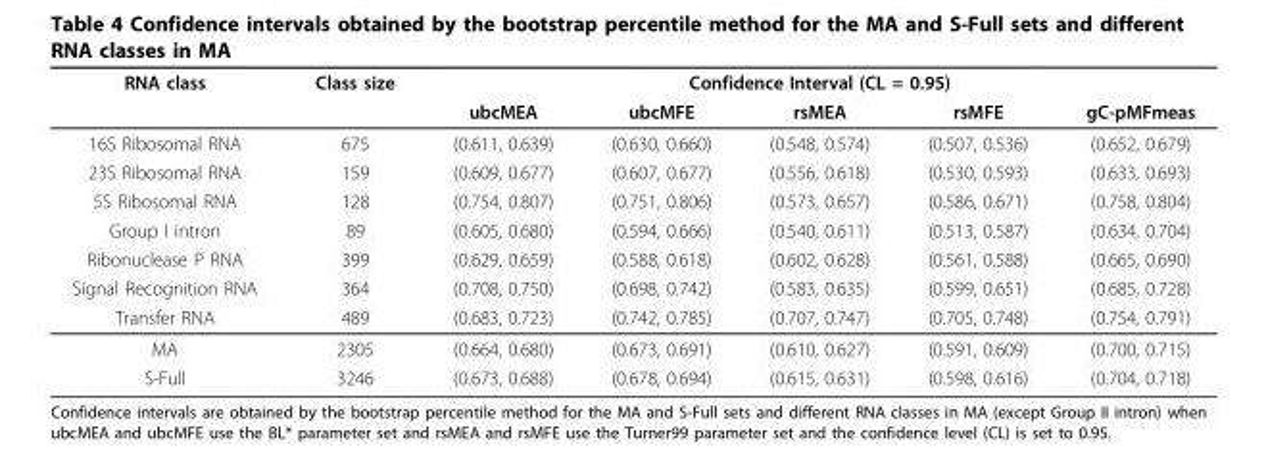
<table><thead><tr><td rowspan="2">RNA class</td><td rowspan="2">Class size</td><td rowspan="2">ubcMEA</td><td colspan="3">Confidence Interval (CL = 0.95)</td><td rowspan="2">gC-pMFmeas</td></tr><tr><td>ubcMFE</td><td>rsMEA</td><td>rsMFE</td></tr></thead><tbody><tr><td>16S Ribosomal RNA</td><td>675</td><td>(0.611, 0.639)</td><td>(0.630, 0.660)</td><td>(0.548, 0.574)</td><td>(0.507, 0.536)</td><td>(0.652, 0.679)</td></tr><tr><td>23S Ribosomal RNA</td><td>159</td><td>(0.609, 0.677)</td><td>(0.607, 0.677)</td><td>(0.556, 0.618)</td><td>(0.530, 0.593)</td><td>(0.633, 0.693)</td></tr><tr><td>5S Ribosomal RNA</td><td>128</td><td>(0.754, 0.807)</td><td>(0.751, 0.806)</td><td>(0.573, 0.657)</td><td>(0.586, 0.671)</td><td>(0.758, 0.804)</td></tr><tr><td>Group I intron</td><td>89</td><td>(0.605, 0.680)</td><td>(0.594, 0.666)</td><td>(0.540, 0.611)</td><td>(0.513, 0.587)</td><td>(0.634, 0.704)</td></tr><tr><td>Ribonuclease P RNA</td><td>399</td><td>(0.629, 0.659)</td><td>(0.588, 0.618)</td><td>(0.602, 0.628)</td><td>(0.561, 0.588)</td><td>(0.665, 0.690)</td></tr><tr><td>Signal Recognition RNA</td><td>364</td><td>(0.708, 0.750)</td><td>(0.698, 0.742)</td><td>(0.583, 0.635)</td><td>(0.599, 0.651)</td><td>(0.685, 0.728)</td></tr><tr><td>Transfer RNA</td><td>489</td><td>(0.683, 0.723)</td><td>(0.742, 0.785)</td><td>(0.707, 0.747)</td><td>(0.705, 0.748)</td><td>(0.754, 0.791)</td></tr><tr><td>MA</td><td>2305</td><td>(0.664, 0.680)</td><td>(0.673, 0.691)</td><td>(0.610, 0.627)</td><td>(0.591, 0.609)</td><td>(0.700, 0.715)</td></tr><tr><td>S-Full</td><td>3246</td><td>(0.673, 0.688)</td><td>(0.678, 0.694)</td><td>(0.615, 0.631)</td><td>(0.598, 0.616)</td><td>(0.704, 0.718)</td></tr></tbody></table>